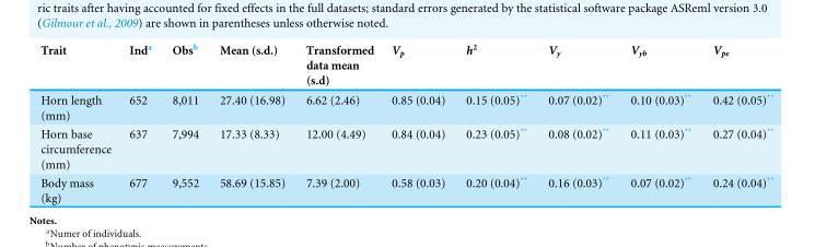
<table><thead><tr><td>Trait</td><td>Ind<sup>a</sup></td><td>Obs<sup>b</sup></td><td>Mean (s.d.)</td><td>Transformed data mean (s.d)</td><td>V<sub>p</sub></td><td>h<sup>2</sup></td><td>V<sub>y</sub></td><td>V<sub>yb</sub></td><td>V<sub>pe</sub></td></tr></thead><tbody><tr><td>Horn length (mm)</td><td>652</td><td>8,011</td><td>27.40 (16.98)</td><td>6.62 (2.46)</td><td>0.85 (0.04)</td><td>0.15 (0.05)**</td><td>0.07 (0.02)**</td><td>0.10 (0.03)**</td><td>0.42 (0.05)**</td></tr><tr><td>Horn base circumference (mm)</td><td>637</td><td>7,994</td><td>17.33 (8.33)</td><td>12.00 (4.49)</td><td>0.84 (0.04)</td><td>0.23 (0.05)**</td><td>0.08 (0.02)**</td><td>0.11 (0.03)**</td><td>0.27 (0.04)**</td></tr><tr><td>Body mass (kg)</td><td>677</td><td>9,552</td><td>58.69 (15.85)</td><td>7.39 (2.00)</td><td>0.58 (0.03)</td><td>0.20 (0.04)**</td><td>0.16 (0.03)**</td><td>0.07 (0.02)**</td><td>0.24 (0.04)**</td></tr></tbody></table>